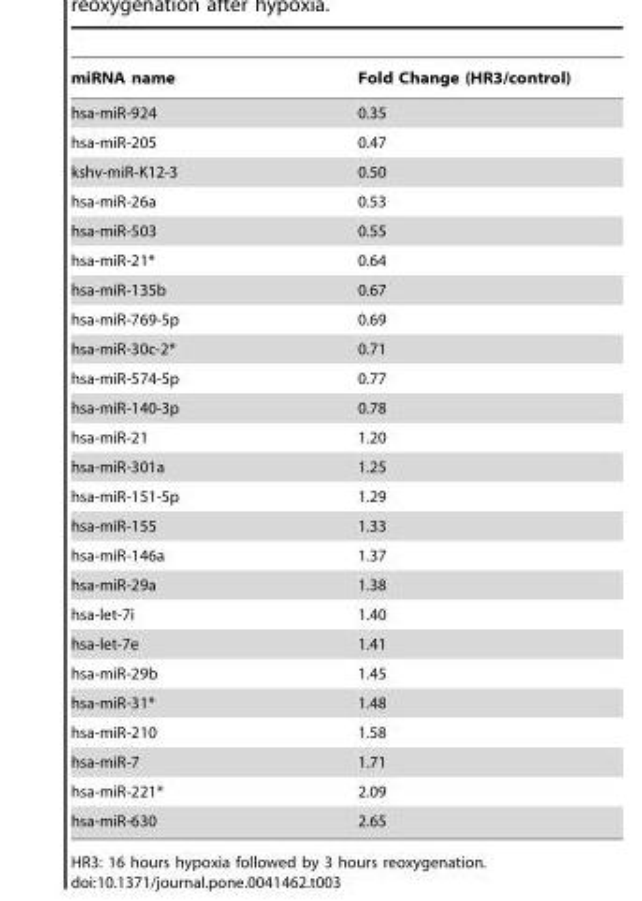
<table><thead><tr><td>miRNA name</td><td>Fold Change (HR3/control)</td></tr></thead><tbody><tr><td>hsa-miR-924</td><td>0.35</td></tr><tr><td>hsa-miR-205</td><td>0.47</td></tr><tr><td>kshv-miR-K12-3</td><td>0.50</td></tr><tr><td>hsa-miR-26a</td><td>0.53</td></tr><tr><td>hsa-miR-503</td><td>0.55</td></tr><tr><td>hsa-miR-21*</td><td>0.64</td></tr><tr><td>hsa-miR-135b</td><td>0.67</td></tr><tr><td>hsa-miR-769-5p</td><td>0.69</td></tr><tr><td>hsa-miR-30c-2*</td><td>0.71</td></tr><tr><td>hsa-miR-574-5p</td><td>0.77</td></tr><tr><td>hsa-miR-140-3p</td><td>0.78</td></tr><tr><td>hsa-miR-21</td><td>1.20</td></tr><tr><td>hsa-miR-301a</td><td>1.25</td></tr><tr><td>hsa-miR-151-5p</td><td>1.29</td></tr><tr><td>hsa-miR-155</td><td>1.33</td></tr><tr><td>hsa-miR-146a</td><td>1.37</td></tr><tr><td>hsa-miR-29a</td><td>1.38</td></tr><tr><td>hsa-let-7i</td><td>1.40</td></tr><tr><td>hsa-let-7e</td><td>1.41</td></tr><tr><td>hsa-miR-29b</td><td>1.45</td></tr><tr><td>hsa-miR-31*</td><td>1.48</td></tr><tr><td>hsa-miR-210</td><td>1.58</td></tr><tr><td>hsa-miR-7</td><td>1.71</td></tr><tr><td>hsa-miR-221*</td><td>2.09</td></tr><tr><td>hsa-miR-630</td><td>2.65</td></tr></tbody></table>